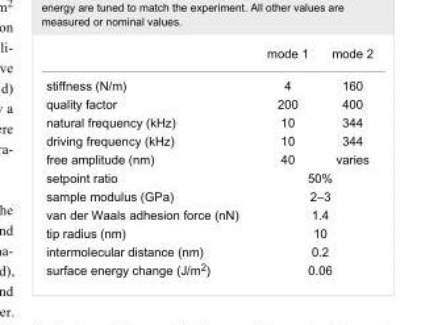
<table><thead><tr><td></td><td>mode 1</td><td>mode 2</td></tr></thead><tbody><tr><td>stiffness (N/m)</td><td>4</td><td>160</td></tr><tr><td>quality factor</td><td>200</td><td>400</td></tr><tr><td>natural frequency (kHz)</td><td>10</td><td>344</td></tr><tr><td>driving frequency (kHz)</td><td>10</td><td>344</td></tr><tr><td>free amplitude (nm)</td><td>40</td><td>varies</td></tr><tr><td>setpoint ratio</td><td colspan="2">50%</td></tr><tr><td>sample modulus (GPa)</td><td colspan="2">2–3</td></tr><tr><td>van der Waals adhesion force (nN)</td><td colspan="2">1.4</td></tr><tr><td>tip radius (nm)</td><td colspan="2">10</td></tr><tr><td>intermolecular distance (nm)</td><td colspan="2">0.2</td></tr><tr><td>surface energy change (J/m<sup>2</sup>)</td><td colspan="2">0.06</td></tr></tbody></table>